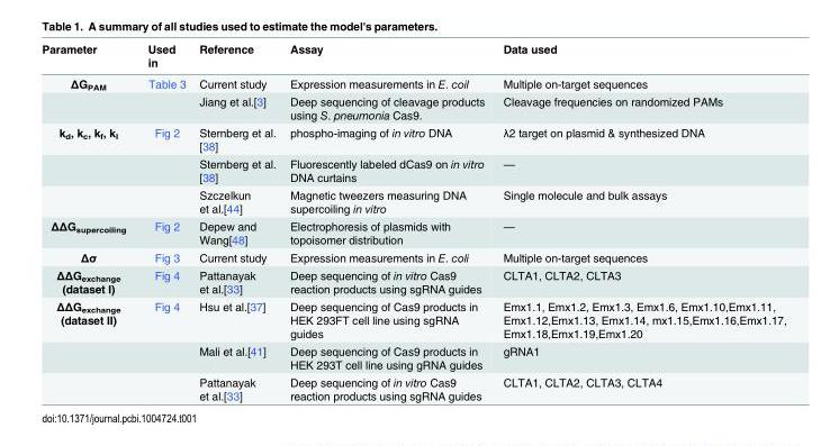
<table><thead><tr><td>Parameter</td><td>Used in</td><td>Reference</td><td>Assay</td><td>Data used</td></tr></thead><tbody><tr><td rowspan="2">ΔG<sub>PAM</sub></td><td>Table 3</td><td>Current study</td><td>Expression measurements in E. coil</td><td>Multiple on-target sequences</td></tr><tr><td></td><td>Jiang et al.[3]</td><td>Deep sequencing of cleavage products using S. pneumonia Cas9.</td><td>Cleavage frequencies on randomized PAMs</td></tr><tr><td rowspan="3">k<sub>d</sub>, k<sub>c</sub>, k<sub>f</sub>, k<sub>I</sub></td><td>Fig 2</td><td>Sternberg et al. [38]</td><td>phospho-imaging of in vitro DNA</td><td>λ2 target on plasmid &amp; synthesized DNA</td></tr><tr><td></td><td>Sternberg et al. [38]</td><td>Fluorescently labeled dCas9 on in vitro DNA curtains</td><td>—</td></tr><tr><td></td><td>Szczelkun et al.[44]</td><td>Magnetic tweezers measuring DNA supercoiling in vitro</td><td>Single molecule and bulk assays</td></tr><tr><td>ΔΔG<sub>supercoiling</sub></td><td>Fig 2</td><td>Depew and Wang[48]</td><td>Electrophoresis of plasmids with topoisomer distribution</td><td>—</td></tr><tr><td>Δσ</td><td>Fig 3</td><td>Current study</td><td>Expression measurements in E. coli</td><td>Multiple on-target sequences</td></tr><tr><td>ΔΔG<sub>exchange</sub> (dataset I)</td><td>Fig 4</td><td>Pattanayak et al.[33]</td><td>Deep sequencing of in vitro Cas9 reaction products using sgRNA guides</td><td>CLTA1, CLTA2, CLTA3</td></tr><tr><td rowspan="3">ΔΔG<sub>exchange</sub> (dataset II)</td><td>Fig 4</td><td>Hsu et al.[37]</td><td>Deep sequencing of Cas9 products in HEK 293FT cell line using sgRNA guides</td><td>Emx1.1, Emx1.2, Emx1.3, Emx1.6, Emx1.10,Emx1.11, Emx1.12,Emx1.13, Emx1.14, mx1.15,Emx1.16,Emx1.17, Emx1.18,Emx1.19,Emx1.20</td></tr><tr><td></td><td>Mali et al.[41]</td><td>Deep sequencing of Cas9 products in HEK 293T cell line using gRNA guides</td><td>gRNA1</td></tr><tr><td></td><td>Pattanayak et al.[33]</td><td>Deep sequencing of in vitro Cas9 reaction products using sgRNA guides</td><td>CLTA1, CLTA2, CLTA3, CLTA4</td></tr></tbody></table>